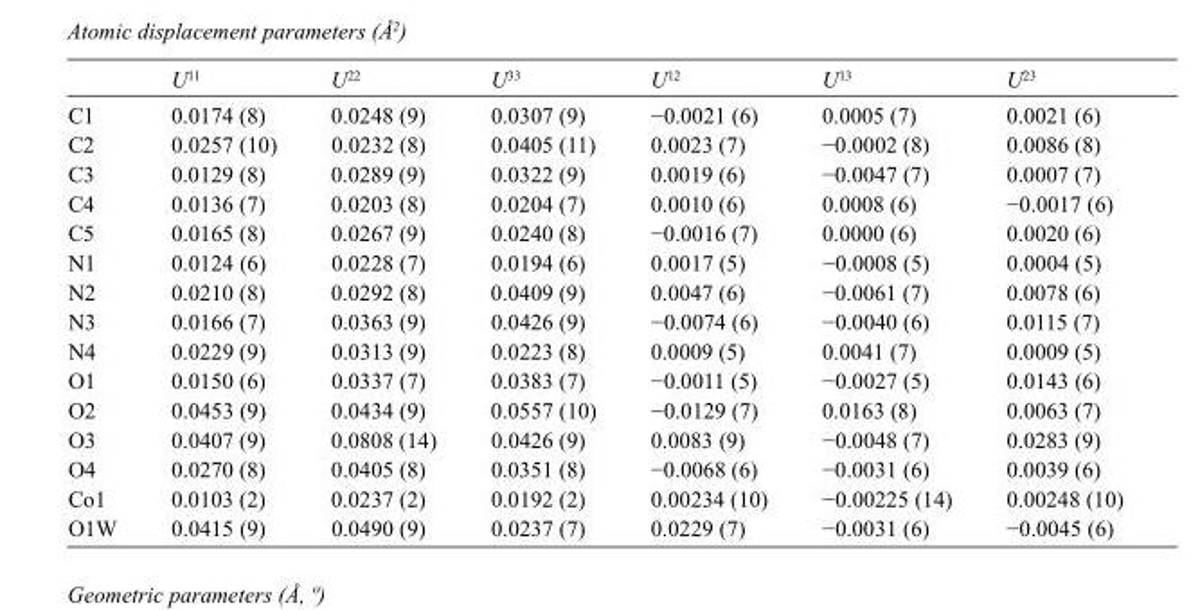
<table><thead><tr><td></td><td>U<sup>11</sup></td><td>U<sup>22</sup></td><td>U<sup>33</sup></td><td>U<sup>12</sup></td><td>U<sup>13</sup></td><td>U<sup>23</sup></td></tr></thead><tbody><tr><td>C1</td><td>0.0174 (8)</td><td>0.0248 (9)</td><td>0.0307 (9)</td><td>−0.0021 (6)</td><td>0.0005 (7)</td><td>0.0021 (6)</td></tr><tr><td>C2</td><td>0.0257 (10)</td><td>0.0232 (8)</td><td>0.0405 (11)</td><td>0.0023 (7)</td><td>−0.0002 (8)</td><td>0.0086 (8)</td></tr><tr><td>C3</td><td>0.0129 (8)</td><td>0.0289 (9)</td><td>0.0322 (9)</td><td>0.0019 (6)</td><td>−0.0047 (7)</td><td>0.0007 (7)</td></tr><tr><td>C4</td><td>0.0136 (7)</td><td>0.0203 (8)</td><td>0.0204 (7)</td><td>0.0010 (6)</td><td>0.0008 (6)</td><td>−0.0017 (6)</td></tr><tr><td>C5</td><td>0.0165 (8)</td><td>0.0267 (9)</td><td>0.0240 (8)</td><td>−0.0016 (7)</td><td>0.0000 (6)</td><td>0.0020 (6)</td></tr><tr><td>N1</td><td>0.0124 (6)</td><td>0.0228 (7)</td><td>0.0194 (6)</td><td>0.0017 (5)</td><td>−0.0008 (5)</td><td>0.0004 (5)</td></tr><tr><td>N2</td><td>0.0210 (8)</td><td>0.0292 (8)</td><td>0.0409 (9)</td><td>0.0047 (6)</td><td>−0.0061 (7)</td><td>0.0078 (6)</td></tr><tr><td>N3</td><td>0.0166 (7)</td><td>0.0363 (9)</td><td>0.0426 (9)</td><td>−0.0074 (6)</td><td>−0.0040 (6)</td><td>0.0115 (7)</td></tr><tr><td>N4</td><td>0.0229 (9)</td><td>0.0313 (9)</td><td>0.0223 (8)</td><td>0.0009 (5)</td><td>0.0041 (7)</td><td>0.0009 (5)</td></tr><tr><td>O1</td><td>0.0150 (6)</td><td>0.0337 (7)</td><td>0.0383 (7)</td><td>−0.0011 (5)</td><td>−0.0027 (5)</td><td>0.0143 (6)</td></tr><tr><td>O2</td><td>0.0453 (9)</td><td>0.0434 (9)</td><td>0.0557 (10)</td><td>−0.0129 (7)</td><td>0.0163 (8)</td><td>0.0063 (7)</td></tr><tr><td>O3</td><td>0.0407 (9)</td><td>0.0808 (14)</td><td>0.0426 (9)</td><td>0.0083 (9)</td><td>−0.0048 (7)</td><td>0.0283 (9)</td></tr><tr><td>O4</td><td>0.0270 (8)</td><td>0.0405 (8)</td><td>0.0351 (8)</td><td>−0.0068 (6)</td><td>−0.0031 (6)</td><td>0.0039 (6)</td></tr><tr><td>Co1</td><td>0.0103 (2)</td><td>0.0237 (2)</td><td>0.0192 (2)</td><td>0.00234 (10)</td><td>−0.00225 (14)</td><td>0.00248 (10)</td></tr><tr><td>O1W</td><td>0.0415 (9)</td><td>0.0490 (9)</td><td>0.0237 (7)</td><td>0.0229 (7)</td><td>−0.0031 (6)</td><td>−0.0045 (6)</td></tr></tbody></table>